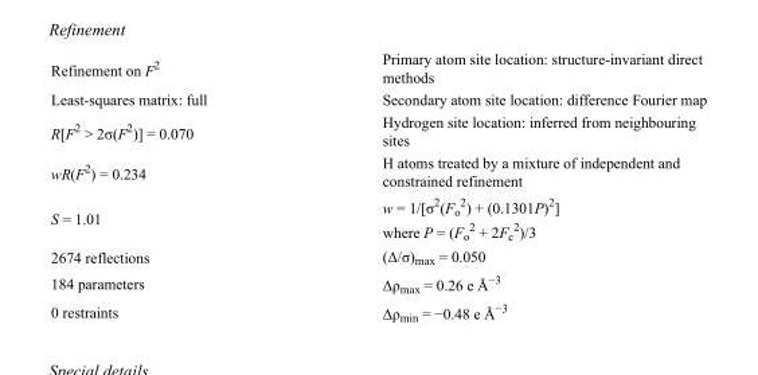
<table><tbody><tr><td>Refinement on F<sup>2</sup></td><td>Primary atom site location: structure-invariant direct methods</td></tr><tr><td>Least-squares matrix: full</td><td>Secondary atom site location: difference Fourier map</td></tr><tr><td>R[F<sup>2</sup> &gt; 2σ(F<sup>2</sup>)] = 0.070</td><td>Hydrogen site location: inferred from neighbouring sites</td></tr><tr><td>wR(F<sup>2</sup>) = 0.234</td><td>H atoms treated by a mixture of independent and constrained refinement</td></tr><tr><td>S = 1.01</td><td>w = 1/[σ<sup>2</sup>(F<sub>o</sub> <sup>2</sup>) + (0.1301P)<sup>2</sup>] where P = (F<sub>o</sub> <sup>2</sup> + 2F<sub>c</sub> <sup>2</sup>)/3</td></tr><tr><td>2674 reflections</td><td>(Δ/σ)<sub>max</sub> = 0.050</td></tr><tr><td>184 parameters</td><td>Δρ<sub>max</sub> = 0.26 e Å<sup>−3</sup></td></tr><tr><td>0 restraints</td><td>Δρ<sub>min</sub> = −0.48 e Å<sup>−3</sup></td></tr></tbody></table>